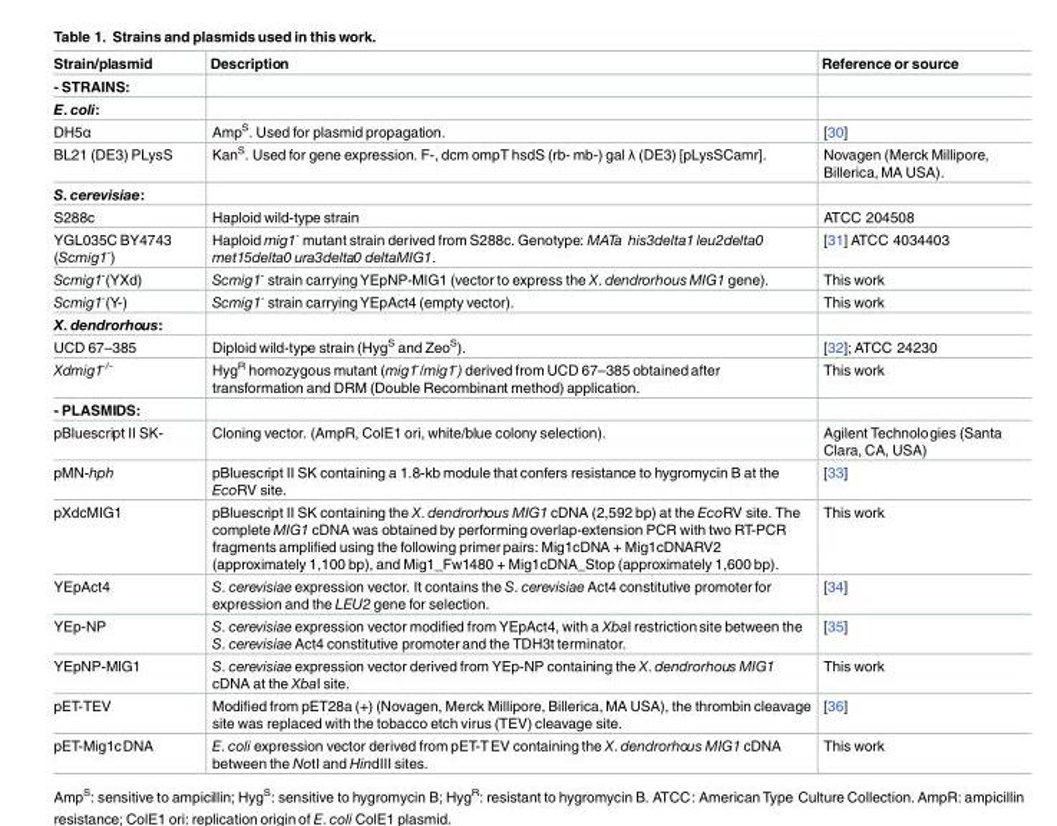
<table><thead><tr><td>Strain/plasmid</td><td>Description</td><td>Reference or source</td></tr></thead><tbody><tr><td colspan="3">- STRAINS:</td></tr><tr><td colspan="3">E. coli:</td></tr><tr><td>DH5α</td><td>Amp<sup>S</sup>. Used for plasmid propagation.</td><td>[30]</td></tr><tr><td>BL21 (DE3) PLysS</td><td>Kan<sup>S</sup>. Used for gene expression. F-, dcm ompT hsdS (rb- mb-) gal λ (DE3) [pLysSCamr].</td><td>Novagen (Merck Millipore, Billerica, MA USA).</td></tr><tr><td colspan="3">S. cerevisiae:</td></tr><tr><td>S288c</td><td>Haploid wild-type strain</td><td>ATCC 204508</td></tr><tr><td>YGL035C BY4743 (Scmig1<sup>-</sup>)</td><td>Haploid mig1<sup>-</sup> mutant strain derived from S288c. Genotype: MATa his3delta1 leu2delta0 met15delta0 ura3delta0 deltaMIG1.</td><td>[31] ATCC 4034403</td></tr><tr><td>Scmig1<sup>-</sup>(YXd)</td><td>Scmig1<sup>-</sup> strain carrying YEpNP-MIG1 (vector to express the X. dendrorhous MIG1 gene).</td><td>This work</td></tr><tr><td>Scmig1<sup>-</sup>(Y-)</td><td>Scmig1<sup>-</sup> strain carrying YEpAct4 (empty vector).</td><td>This work</td></tr><tr><td colspan="3">X. dendrorhous:</td></tr><tr><td>UCD 67–385</td><td>Diploid wild-type strain (Hyg<sup>S</sup> and Zeo<sup>S</sup>).</td><td>[32]; ATCC 24230</td></tr><tr><td>Xdmig1<sup>-/-</sup></td><td>Hyg<sup>R</sup> homozygous mutant (mig1<sup>-</sup>/mig1<sup>-</sup>) derived from UCD 67–385 obtained after transformation and DRM (Double Recombinant method) application.</td><td>This work</td></tr><tr><td colspan="3">- PLASMIDS:</td></tr><tr><td>pBluescript II SK-</td><td>Cloning vector. (AmpR, ColE1 ori, white/blue colony selection).</td><td>Agilent Technologies (Santa Clara, CA, USA)</td></tr><tr><td>pMN-hph</td><td>pBluescript II SK containing a 1.8-kb module that confers resistance to hygromycin B at the EcoRV site.</td><td>[33]</td></tr><tr><td>pXdcMIG1</td><td>pBluescript II SK containing the X. dendrorhous MIG1 cDNA (2,592 bp) at the EcoRV site. The complete MIG1 cDNA was obtained by performing overlap-extension PCR with two RT-PCR fragments amplified using the following primer pairs: Mig1cDNA + Mig1cDNARV2 (approximately 1,100 bp), and Mig1_Fw1480 + Mig1cDNA_Stop (approximately 1,600 bp).</td><td>This work</td></tr><tr><td>YEpAct4</td><td>S. cerevisiae expression vector. It contains the S. cerevisiae Act4 constitutive promoter for expression and the LEU2 gene for selection.</td><td>[34]</td></tr><tr><td>YEp-NP</td><td>S. cerevisiae expression vector modified from YEpAct4, with a XbaI restriction site between the S. cerevisiae Act4 constitutive promoter and the TDH3t terminator.</td><td>[35]</td></tr><tr><td>YEpNP-MIG1</td><td>S. cerevisiae expression vector derived from YEp-NP containing the X. dendrorhous MIG1 cDNA at the XbaI site.</td><td>This work</td></tr><tr><td>pET-TEV</td><td>Modified from pET28a (+) (Novagen, Merck Millipore, Billerica, MA USA), the thrombin cleavage site was replaced with the tobacco etch virus (TEV) cleavage site.</td><td>[36]</td></tr><tr><td>pET-Mig1cDNA</td><td>E. coli expression vector derived from pET-TEV containing the X. dendrorhous MIG1 cDNA between the NotI and HindIII sites.</td><td>This work</td></tr></tbody></table>